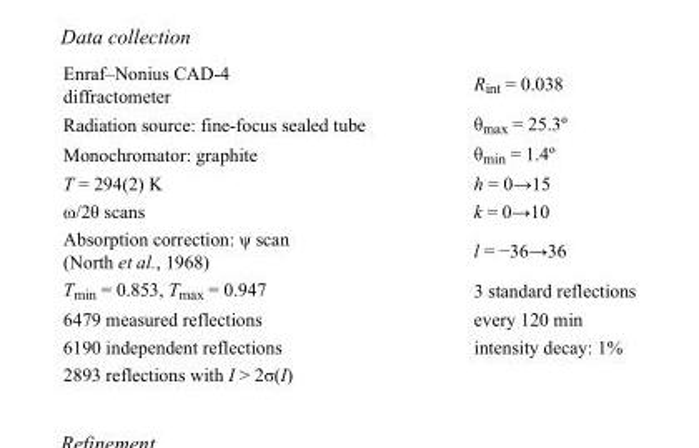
<table><tbody><tr><td>Enraf–Nonius CAD-4 diffractometer</td><td>R<sub>int</sub> = 0.038</td></tr><tr><td>Radiation source: fine-focus sealed tube</td><td>θ<sub>max</sub> = 25.3º</td></tr><tr><td>Monochromator: graphite</td><td>θ<sub>min</sub> = 1.4º</td></tr><tr><td>T = 294(2) K</td><td>h = 0→15</td></tr><tr><td>ω/2θ scans</td><td>k = 0→10</td></tr><tr><td>Absorption correction: ψ scan (North et al., 1968)</td><td>l = −36→36</td></tr><tr><td>T<sub>min</sub> = 0.853, T<sub>max</sub> = 0.947</td><td>3 standard reflections</td></tr><tr><td>6479 measured reflections</td><td>every 120 min</td></tr><tr><td>6190 independent reflections</td><td>intensity decay: 1%</td></tr><tr><td>2893 reflections with I &gt; 2σ(I)</td><td></td></tr></tbody></table>